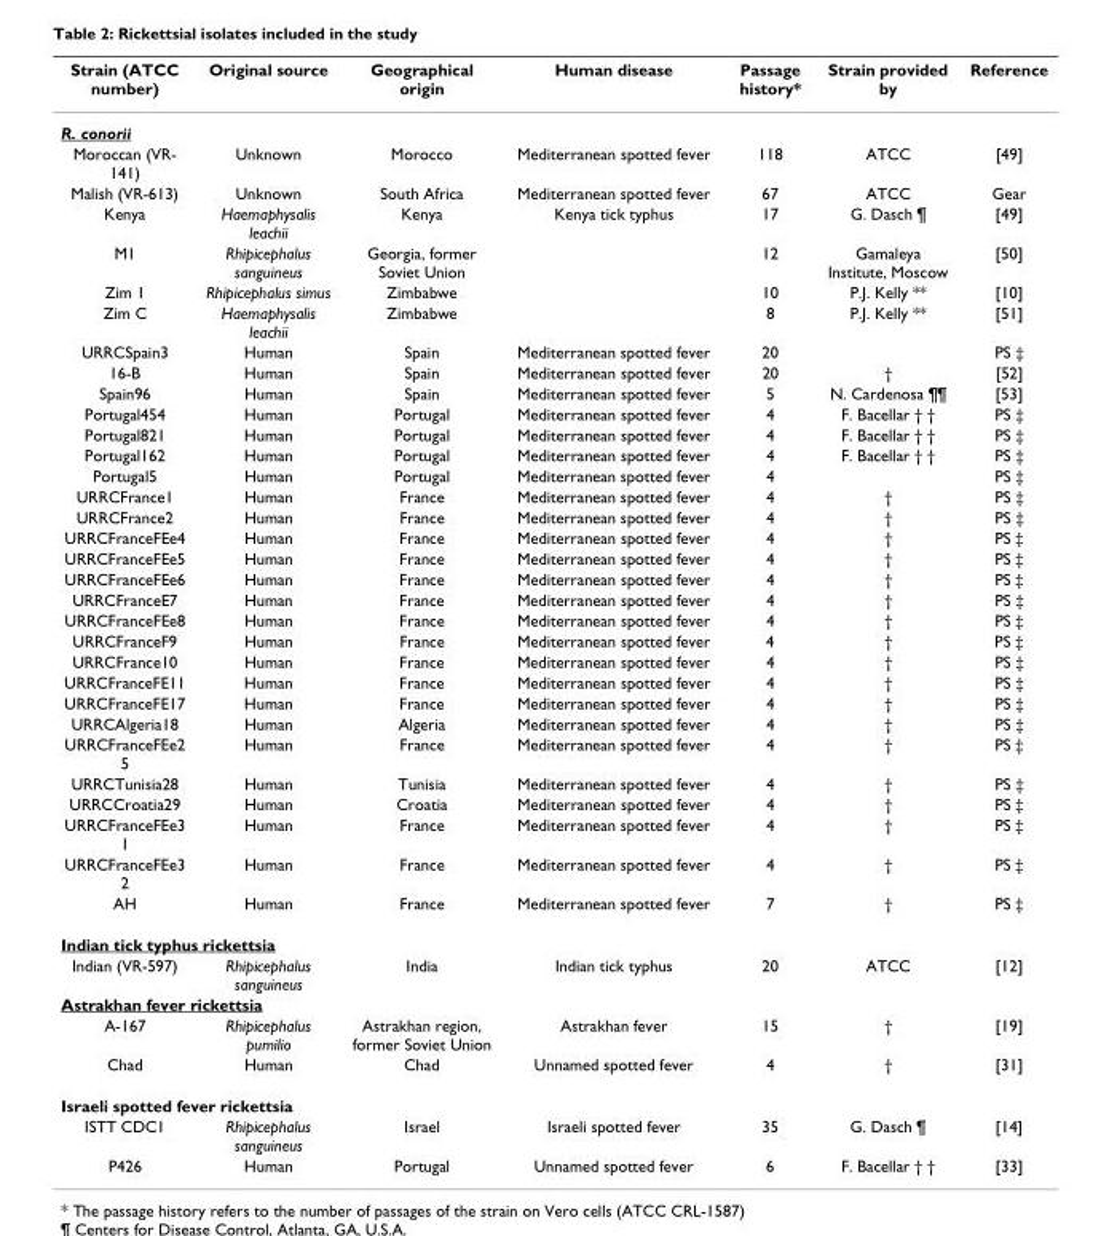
<table><thead><tr><td>Strain (ATCC number)</td><td>Original source</td><td>Geographical origin</td><td>Human disease</td><td>Passage history*</td><td>Strain provided by</td><td>Reference</td></tr></thead><tbody><tr><td colspan="7">R. conorii</td></tr><tr><td>Moroccan (VR- 141)</td><td>Unknown</td><td>Morocco</td><td>Mediterranean spotted fever</td><td>118</td><td>ATCC</td><td>[49]</td></tr><tr><td>Malish (VR-613)</td><td>Unknown</td><td>South Africa</td><td>Mediterranean spotted fever</td><td>67</td><td>ATCC</td><td>Gear</td></tr><tr><td>Kenya</td><td>Haemaphysalis leachii</td><td>Kenya</td><td>Kenya tick typhus</td><td>17</td><td>G. Dasch ¶</td><td>[49]</td></tr><tr><td>M1</td><td>Rhipicephalus sanguineus</td><td>Georgia, former Soviet Union</td><td></td><td>12</td><td>Gamaleya Institute, Moscow</td><td>[50]</td></tr><tr><td>Zim 1</td><td>Rhipicephalus simus</td><td>Zimbabwe</td><td></td><td>10</td><td>P.J. Kelly **</td><td>[10]</td></tr><tr><td>Zim C</td><td>Haemaphysalis leachii</td><td>Zimbabwe</td><td></td><td>8</td><td>P.J. Kelly **</td><td>[51]</td></tr><tr><td>URRCSpain3</td><td>Human</td><td>Spain</td><td>Mediterranean spotted fever</td><td>20</td><td></td><td>PS ‡</td></tr><tr><td>16-B</td><td>Human</td><td>Spain</td><td>Mediterranean spotted fever</td><td>20</td><td>†</td><td>[52]</td></tr><tr><td>Spain96</td><td>Human</td><td>Spain</td><td>Mediterranean spotted fever</td><td>5</td><td>N. Cardenosa ¶¶</td><td>[53]</td></tr><tr><td>Portugal454</td><td>Human</td><td>Portugal</td><td>Mediterranean spotted fever</td><td>4</td><td>F. Bacellar † †</td><td>PS ‡</td></tr><tr><td>Portugal821</td><td>Human</td><td>Portugal</td><td>Mediterranean spotted fever</td><td>4</td><td>F. Bacellar † †</td><td>PS ‡</td></tr><tr><td>Portugal162</td><td>Human</td><td>Portugal</td><td>Mediterranean spotted fever</td><td>4</td><td>F. Bacellar † †</td><td>PS ‡</td></tr><tr><td>Portugal5</td><td>Human</td><td>Portugal</td><td>Mediterranean spotted fever</td><td>4</td><td></td><td>PS ‡</td></tr><tr><td>URRCFrance1</td><td>Human</td><td>France</td><td>Mediterranean spotted fever</td><td>4</td><td>†</td><td>PS ‡</td></tr><tr><td>URRCFrance2</td><td>Human</td><td>France</td><td>Mediterranean spotted fever</td><td>4</td><td>†</td><td>PS ‡</td></tr><tr><td>URRCFranceFEe4</td><td>Human</td><td>France</td><td>Mediterranean spotted fever</td><td>4</td><td>†</td><td>PS ‡</td></tr><tr><td>URRCFranceFEe5</td><td>Human</td><td>France</td><td>Mediterranean spotted fever</td><td>4</td><td>†</td><td>PS ‡</td></tr><tr><td>URRCFranceFEe6</td><td>Human</td><td>France</td><td>Mediterranean spotted fever</td><td>4</td><td>†</td><td>PS ‡</td></tr><tr><td>URRCFranceE7</td><td>Human</td><td>France</td><td>Mediterranean spotted fever</td><td>4</td><td>†</td><td>PS ‡</td></tr><tr><td>URRCFranceFEe8</td><td>Human</td><td>France</td><td>Mediterranean spotted fever</td><td>4</td><td>†</td><td>PS ‡</td></tr><tr><td>URRCFranceF9</td><td>Human</td><td>France</td><td>Mediterranean spotted fever</td><td>4</td><td>†</td><td>PS ‡</td></tr><tr><td>URRCFrance10</td><td>Human</td><td>France</td><td>Mediterranean spotted fever</td><td>4</td><td>†</td><td>PS ‡</td></tr><tr><td>URRCFranceFE11</td><td>Human</td><td>France</td><td>Mediterranean spotted fever</td><td>4</td><td>†</td><td>PS ‡</td></tr><tr><td>URRCFranceFE17</td><td>Human</td><td>France</td><td>Mediterranean spotted fever</td><td>4</td><td>†</td><td>PS ‡</td></tr><tr><td>URRCAlgeria18</td><td>Human</td><td>Algeria</td><td>Mediterranean spotted fever</td><td>4</td><td>†</td><td>PS ‡</td></tr><tr><td>URRCFranceFEe2 5</td><td>Human</td><td>France</td><td>Mediterranean spotted fever</td><td>4</td><td>†</td><td>PS ‡</td></tr><tr><td>URRCTunisia28</td><td>Human</td><td>Tunisia</td><td>Mediterranean spotted fever</td><td>4</td><td>†</td><td>PS ‡</td></tr><tr><td>URRCCroatia29</td><td>Human</td><td>Croatia</td><td>Mediterranean spotted fever</td><td>4</td><td>†</td><td>PS ‡</td></tr><tr><td>URRCFranceFEe3 1</td><td>Human</td><td>France</td><td>Mediterranean spotted fever</td><td>4</td><td>†</td><td>PS ‡</td></tr><tr><td>URRCFranceFEe3 2</td><td>Human</td><td>France</td><td>Mediterranean spotted fever</td><td>4</td><td>†</td><td>PS ‡</td></tr><tr><td>AH</td><td>Human</td><td>France</td><td>Mediterranean spotted fever</td><td>7</td><td>†</td><td>PS ‡</td></tr><tr><td colspan="7">Indian tick typhus rickettsia</td></tr><tr><td>Indian (VR-597)</td><td>Rhipicephalus sanguineus</td><td>India</td><td>Indian tick typhus</td><td>20</td><td>ATCC</td><td>[12]</td></tr><tr><td colspan="7">Astrakhan fever rickettsia</td></tr><tr><td>A-167</td><td>Rhipicephalus pumilio</td><td>Astrakhan region, former Soviet Union</td><td>Astrakhan fever</td><td>15</td><td>†</td><td>[19]</td></tr><tr><td>Chad</td><td>Human</td><td>Chad</td><td>Unnamed spotted fever</td><td>4</td><td>†</td><td>[31]</td></tr><tr><td colspan="7">Israeli spotted fever rickettsia</td></tr><tr><td>ISTT CDC1</td><td>Rhipicephalus sanguineus</td><td>Israel</td><td>Israeli spotted fever</td><td>35</td><td>G. Dasch ¶</td><td>[14]</td></tr><tr><td>P426</td><td>Human</td><td>Portugal</td><td>Unnamed spotted fever</td><td>6</td><td>F. Bacellar † †</td><td>[33]</td></tr></tbody></table>